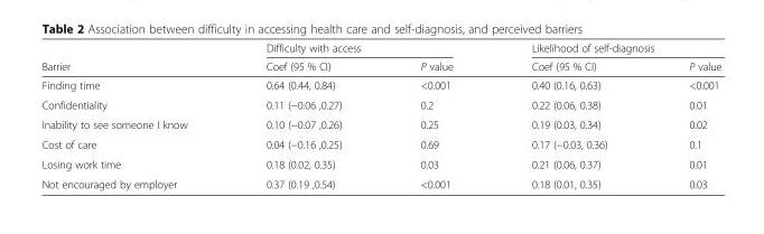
<table><thead><tr><td rowspan="2">Barrier</td><td colspan="2">Difficulty with access</td><td colspan="2">Likelihood of self-diagnosis</td></tr><tr><td>Coef (95 % CI)</td><td>P value</td><td>Coef (95 % CI)</td><td>P value</td></tr></thead><tbody><tr><td>Finding time</td><td>0.64 (0.44, 0.84)</td><td>&lt;0.001</td><td>0.40 (0.16, 0.63)</td><td>&lt;0.001</td></tr><tr><td>Confidentiality</td><td>0.11 (−0.06 ,0.27)</td><td>0.2</td><td>0.22 (0.06, 0.38)</td><td>0.01</td></tr><tr><td>Inability to see someone I know</td><td>0.10 (−0.07 ,0.26)</td><td>0.25</td><td>0.19 (0.03, 0.34)</td><td>0.02</td></tr><tr><td>Cost of care</td><td>0.04 (−0.16 ,0.25)</td><td>0.69</td><td>0.17 (−0.03, 0.36)</td><td>0.1</td></tr><tr><td>Losing work time</td><td>0.18 (0.02, 0.35)</td><td>0.03</td><td>0.21 (0.06, 0.37)</td><td>0.01</td></tr><tr><td>Not encouraged by employer</td><td>0.37 (0.19 ,0.54)</td><td>&lt;0.001</td><td>0.18 (0.01, 0.35)</td><td>0.03</td></tr></tbody></table>